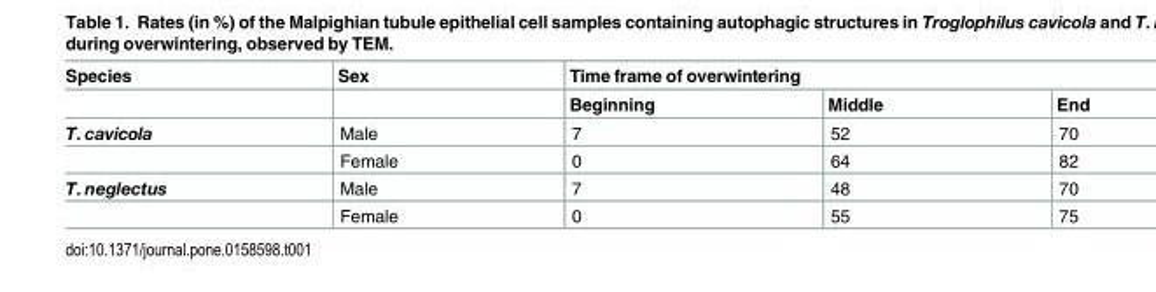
<table><thead><tr><td rowspan="2">Species</td><td rowspan="2">Sex</td><td colspan="3">Time frame of overwintering</td></tr><tr><td>Beginning</td><td>Middle</td><td>End</td></tr></thead><tbody><tr><td rowspan="2">T. cavicola</td><td>Male</td><td>7</td><td>52</td><td>70</td></tr><tr><td>Female</td><td>0</td><td>64</td><td>82</td></tr><tr><td rowspan="2">T. neglectus</td><td>Male</td><td>7</td><td>48</td><td>70</td></tr><tr><td>Female</td><td>0</td><td>55</td><td>75</td></tr></tbody></table>